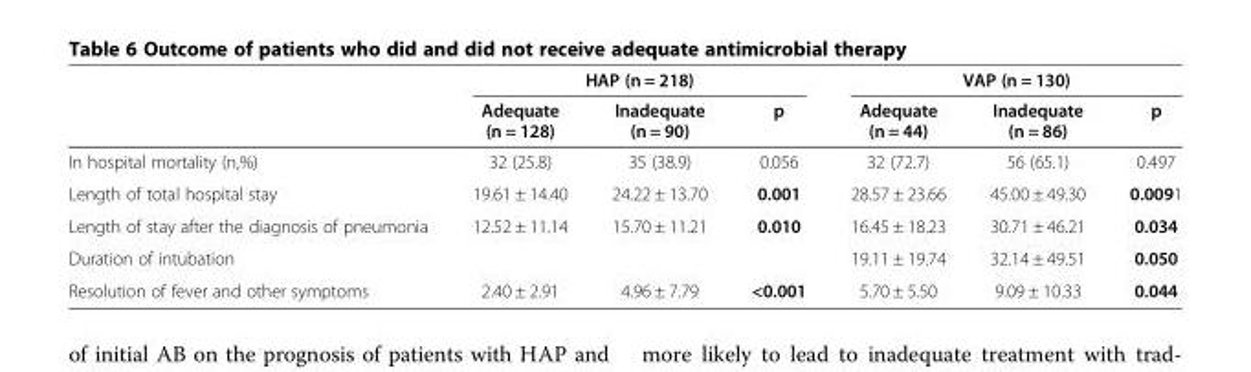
<table><thead><tr><td rowspan="2"></td><td rowspan="2">Adequate (n = 128)</td><td rowspan="2">HAP (n = 218) Inadequate (n = 90)</td><td rowspan="2">p</td><td rowspan="2">Adequate (n = 44)</td><td rowspan="2">VAP (n = 130) Inadequate (n = 86)</td><td rowspan="2">p</td></tr><tr></tr></thead><tbody><tr><td>In hospital mortality (n,%)</td><td>32 (25.8)</td><td>35 (38.9)</td><td>0.056</td><td>32 (72.7)</td><td>56 (65.1)</td><td>0.497</td></tr><tr><td>Length of total hospital stay</td><td>19.61 ± 14.40</td><td>24.22 ± 13.70</td><td>0.001</td><td>28.57 ± 23.66</td><td>45.00 ± 49.30</td><td>0.0091</td></tr><tr><td>Length of stay after the diagnosis of pneumonia</td><td>12.52 ± 11.14</td><td>15.70 ± 11.21</td><td>0.010</td><td>16.45 ± 18.23</td><td>30.71 ± 46.21</td><td>0.034</td></tr><tr><td>Duration of intubation</td><td></td><td></td><td></td><td>19.11 ± 19.74</td><td>32.14 ± 49.51</td><td>0.050</td></tr><tr><td>Resolution of fever and other symptoms</td><td>2.40 ± 2.91</td><td>4.96 ± 7.79</td><td>&lt;0.001</td><td>5.70 ± 5.50</td><td>9.09 ± 10.33</td><td>0.044</td></tr></tbody></table>